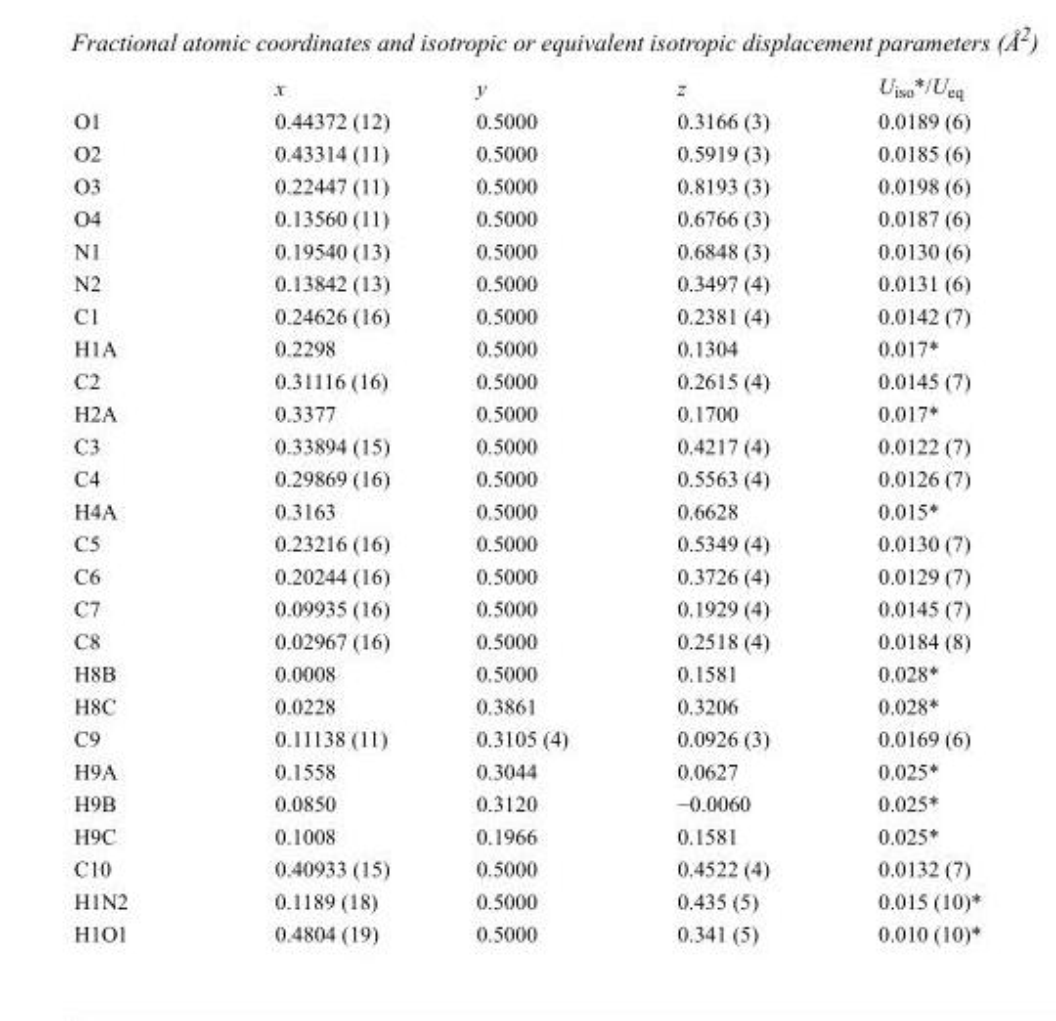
<table><thead><tr><td></td><td>x</td><td>y</td><td>z</td><td>U<sub>iso</sub>*/U<sub>eq</sub></td></tr></thead><tbody><tr><td>O1</td><td>0.44372 (12)</td><td>0.5000</td><td>0.3166 (3)</td><td>0.0189 (6)</td></tr><tr><td>O2</td><td>0.43314 (11)</td><td>0.5000</td><td>0.5919 (3)</td><td>0.0185 (6)</td></tr><tr><td>O3</td><td>0.22447 (11)</td><td>0.5000</td><td>0.8193 (3)</td><td>0.0198 (6)</td></tr><tr><td>O4</td><td>0.13560 (11)</td><td>0.5000</td><td>0.6766 (3)</td><td>0.0187 (6)</td></tr><tr><td>N1</td><td>0.19540 (13)</td><td>0.5000</td><td>0.6848 (3)</td><td>0.0130 (6)</td></tr><tr><td>N2</td><td>0.13842 (13)</td><td>0.5000</td><td>0.3497 (4)</td><td>0.0131 (6)</td></tr><tr><td>C1</td><td>0.24626 (16)</td><td>0.5000</td><td>0.2381 (4)</td><td>0.0142 (7)</td></tr><tr><td>H1A</td><td>0.2298</td><td>0.5000</td><td>0.1304</td><td>0.017*</td></tr><tr><td>C2</td><td>0.31116 (16)</td><td>0.5000</td><td>0.2615 (4)</td><td>0.0145 (7)</td></tr><tr><td>H2A</td><td>0.3377</td><td>0.5000</td><td>0.1700</td><td>0.017*</td></tr><tr><td>C3</td><td>0.33894 (15)</td><td>0.5000</td><td>0.4217 (4)</td><td>0.0122 (7)</td></tr><tr><td>C4</td><td>0.29869 (16)</td><td>0.5000</td><td>0.5563 (4)</td><td>0.0126 (7)</td></tr><tr><td>H4A</td><td>0.3163</td><td>0.5000</td><td>0.6628</td><td>0.015*</td></tr><tr><td>C5</td><td>0.23216 (16)</td><td>0.5000</td><td>0.5349 (4)</td><td>0.0130 (7)</td></tr><tr><td>C6</td><td>0.20244 (16)</td><td>0.5000</td><td>0.3726 (4)</td><td>0.0129 (7)</td></tr><tr><td>C7</td><td>0.09935 (16)</td><td>0.5000</td><td>0.1929 (4)</td><td>0.0145 (7)</td></tr><tr><td>C8</td><td>0.02967 (16)</td><td>0.5000</td><td>0.2518 (4)</td><td>0.0184 (8)</td></tr><tr><td>H8B</td><td>0.0008</td><td>0.5000</td><td>0.1581</td><td>0.028*</td></tr><tr><td>H8C</td><td>0.0228</td><td>0.3861</td><td>0.3206</td><td>0.028*</td></tr><tr><td>C9</td><td>0.11138 (11)</td><td>0.3105 (4)</td><td>0.0926 (3)</td><td>0.0169 (6)</td></tr><tr><td>H9A</td><td>0.1558</td><td>0.3044</td><td>0.0627</td><td>0.025*</td></tr><tr><td>H9B</td><td>0.0850</td><td>0.3120</td><td>−0.0060</td><td>0.025*</td></tr><tr><td>H9C</td><td>0.1008</td><td>0.1966</td><td>0.1581</td><td>0.025*</td></tr><tr><td>C10</td><td>0.40933 (15)</td><td>0.5000</td><td>0.4522 (4)</td><td>0.0132 (7)</td></tr><tr><td>H1N2</td><td>0.1189 (18)</td><td>0.5000</td><td>0.435 (5)</td><td>0.015 (10)*</td></tr><tr><td>H1O1</td><td>0.4804 (19)</td><td>0.5000</td><td>0.341 (5)</td><td>0.010 (10)*</td></tr></tbody></table>